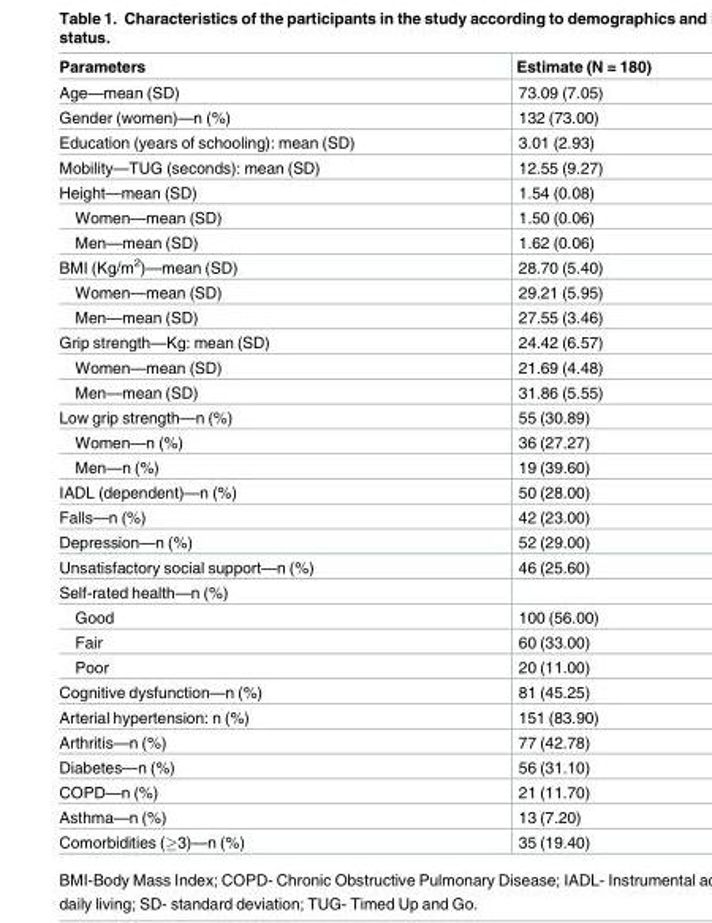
<table><thead><tr><td>Parameters</td><td>Estimate (N = 180)</td></tr></thead><tbody><tr><td>Age—mean (SD)</td><td>73.09 (7.05)</td></tr><tr><td>Gender (women)—n (%)</td><td>132 (73.00)</td></tr><tr><td>Education (years of schooling): mean (SD)</td><td>3.01 (2.93)</td></tr><tr><td>Mobility—TUG (seconds): mean (SD)</td><td>12.55 (9.27)</td></tr><tr><td>Height—mean (SD)</td><td>1.54 (0.08)</td></tr><tr><td>Women—mean (SD)</td><td>1.50 (0.06)</td></tr><tr><td>Men—mean (SD)</td><td>1.62 (0.06)</td></tr><tr><td>BMI (Kg/m<sup>2</sup>)—mean (SD)</td><td>28.70 (5.40)</td></tr><tr><td>Women—mean (SD)</td><td>29.21 (5.95)</td></tr><tr><td>Men—mean (SD)</td><td>27.55 (3.46)</td></tr><tr><td>Grip strength—Kg: mean (SD)</td><td>24.42 (6.57)</td></tr><tr><td>Women—mean (SD)</td><td>21.69 (4.48)</td></tr><tr><td>Men—mean (SD)</td><td>31.86 (5.55)</td></tr><tr><td>Low grip strength—n (%)</td><td>55 (30.89)</td></tr><tr><td>Women—n (%)</td><td>36 (27.27)</td></tr><tr><td>Men—n (%)</td><td>19 (39.60)</td></tr><tr><td>IADL (dependent)—n (%)</td><td>50 (28.00)</td></tr><tr><td>Falls—n (%)</td><td>42 (23.00)</td></tr><tr><td>Depression—n (%)</td><td>52 (29.00)</td></tr><tr><td>Unsatisfactory social support—n (%)</td><td>46 (25.60)</td></tr><tr><td colspan="2">Self-rated health—n (%)</td></tr><tr><td>Good</td><td>100 (56.00)</td></tr><tr><td>Fair</td><td>60 (33.00)</td></tr><tr><td>Poor</td><td>20 (11.00)</td></tr><tr><td>Cognitive dysfunction—n (%)</td><td>81 (45.25)</td></tr><tr><td>Arterial hypertension: n (%)</td><td>151 (83.90)</td></tr><tr><td>Arthritis—n (%)</td><td>77 (42.78)</td></tr><tr><td>Diabetes—n (%)</td><td>56 (31.10)</td></tr><tr><td>COPD—n (%)</td><td>21 (11.70)</td></tr><tr><td>Asthma—n (%)</td><td>13 (7.20)</td></tr><tr><td>Comorbidities (≥3)—n (%)</td><td>35 (19.40)</td></tr></tbody></table>